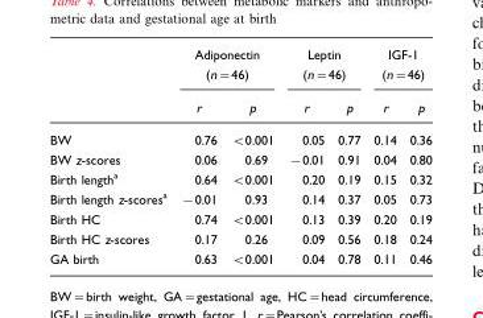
<table><thead><tr><td rowspan="2"></td><td colspan="2">Adiponectin (n=46)</td><td colspan="2">Leptin (n=46)</td><td colspan="2">IGF-1 (n=46)</td></tr><tr><td>r</td><td>p</td><td>r</td><td>p</td><td>r</td><td>p</td></tr></thead><tbody><tr><td>BW</td><td>0.76</td><td>&lt;0.001</td><td>0.05</td><td>0.77</td><td>0.14</td><td>0.36</td></tr><tr><td>BW z-scores</td><td>0.06</td><td>0.69</td><td>−0.01</td><td>0.91</td><td>0.04</td><td>0.80</td></tr><tr><td>Birth length<sup>a</sup></td><td>0.64</td><td>&lt;0.001</td><td>0.20</td><td>0.19</td><td>0.15</td><td>0.32</td></tr><tr><td>Birth length z-scores<sup>a</sup></td><td>−0.01</td><td>0.93</td><td>0.14</td><td>0.37</td><td>0.05</td><td>0.73</td></tr><tr><td>Birth HC</td><td>0.74</td><td>&lt;0.001</td><td>0.13</td><td>0.39</td><td>0.20</td><td>0.19</td></tr><tr><td>Birth HC z-scores</td><td>0.17</td><td>0.26</td><td>0.09</td><td>0.56</td><td>0.18</td><td>0.24</td></tr><tr><td>GA birth</td><td>0.63</td><td>&lt;0.001</td><td>0.04</td><td>0.78</td><td>0.11</td><td>0.46</td></tr></tbody></table>